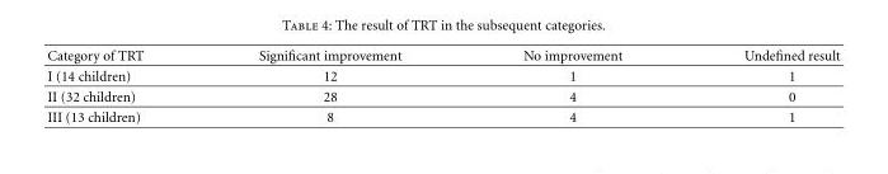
<table><thead><tr><td>Category of TRT</td><td>Significant improvement</td><td>No improvement</td><td>Undefined result</td></tr></thead><tbody><tr><td>I (14 children)</td><td>12</td><td>1</td><td>1</td></tr><tr><td>II (32 children)</td><td>28</td><td>4</td><td>0</td></tr><tr><td>III (13 children)</td><td>8</td><td>4</td><td>1</td></tr></tbody></table>